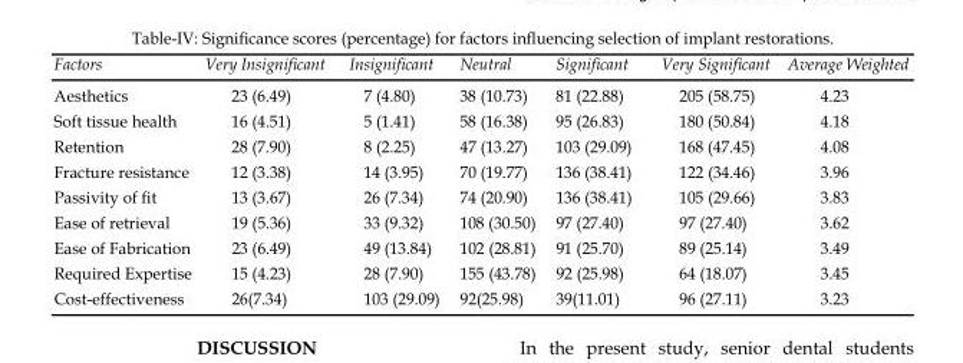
<table><thead><tr><td>Factors</td><td>Very Insignificant</td><td>Insignificant</td><td>Neutral</td><td>Significant</td><td>Very Significant</td><td>Average Weighted</td></tr></thead><tbody><tr><td>Aesthetics</td><td>23 (6.49)</td><td>7 (4.80)</td><td>38 (10.73)</td><td>81 (22.88)</td><td>205 (58.75)</td><td>4.23</td></tr><tr><td>Soft tissue health</td><td>16 (4.51)</td><td>5 (1.41)</td><td>58 (16.38)</td><td>95 (26.83)</td><td>180 (50.84)</td><td>4.18</td></tr><tr><td>Retention</td><td>28 (7.90)</td><td>8 (2.25)</td><td>47 (13.27)</td><td>103 (29.09)</td><td>168 (47.45)</td><td>4.08</td></tr><tr><td>Fracture resistance</td><td>12 (3.38)</td><td>14 (3.95)</td><td>70 (19.77)</td><td>136 (38.41)</td><td>122 (34.46)</td><td>3.96</td></tr><tr><td>Passivity of fit</td><td>13 (3.67)</td><td>26 (7.34)</td><td>74 (20.90)</td><td>136 (38.41)</td><td>105 (29.66)</td><td>3.83</td></tr><tr><td>Ease of retrieval</td><td>19 (5.36)</td><td>33 (9.32)</td><td>108 (30.50)</td><td>97 (27.40)</td><td>97 (27.40)</td><td>3.62</td></tr><tr><td>Ease of Fabrication</td><td>23 (6.49)</td><td>49 (13.84)</td><td>102 (28.81)</td><td>91 (25.70)</td><td>89 (25.14)</td><td>3.49</td></tr><tr><td>Required Expertise</td><td>15 (4.23)</td><td>28 (7.90)</td><td>155 (43.78)</td><td>92 (25.98)</td><td>64 (18.07)</td><td>3.45</td></tr><tr><td>Cost-effectiveness</td><td>26(7.34)</td><td>103 (29.09)</td><td>92(25.98)</td><td>39(11.01)</td><td>96 (27.11)</td><td>3.23</td></tr></tbody></table>